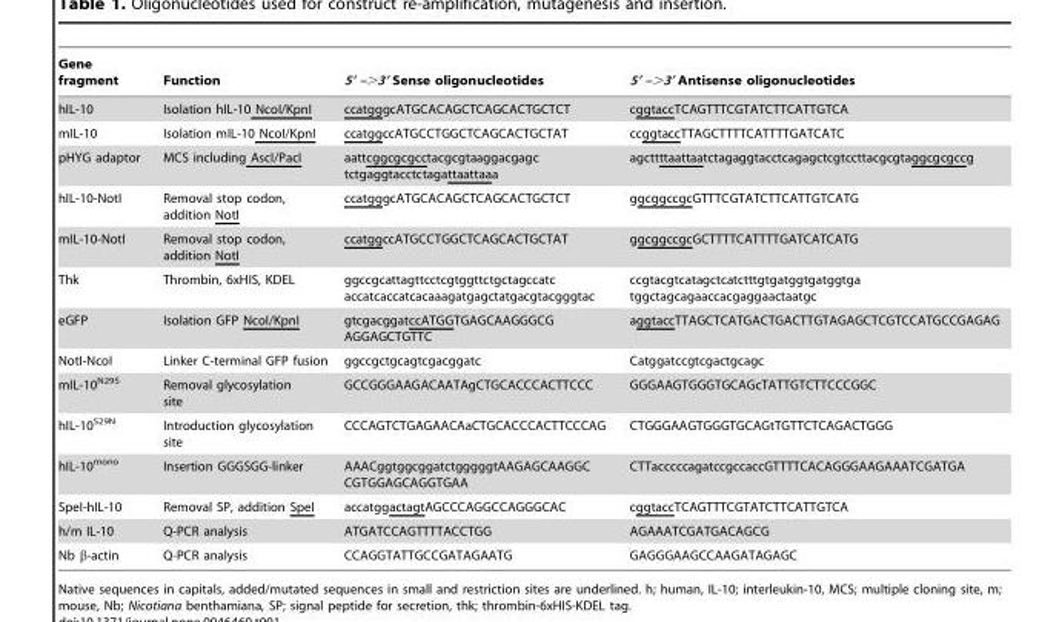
<table><thead><tr><td>Gene fragment</td><td>Function</td><td>5’ –&gt;3’ Sense oligonucleotides</td><td>5’ –&gt;3’ Antisense oligonucleotides</td></tr></thead><tbody><tr><td>hIL-10</td><td>Isolation hIL-10 NcoI/KpnI</td><td>ccatgggcATGCACAGCTCAGCACTGCTCT</td><td>cggtaccTCAGTTTCGTATCTTCATTGTCA</td></tr><tr><td>mIL-10</td><td>Isolation mIL-10 NcoI/KpnI</td><td>ccatggccATGCCTGGCTCAGCACTGCTAT</td><td>ccggtaccTTAGCTTTTCATTTTGATCATC</td></tr><tr><td>pHYG adaptor</td><td>MCS including AscI/PacI</td><td>aattcggcgcgcctacgcgtaaggacgagc tctgaggtacctctagattaattaaa</td><td>agcttttaattaatctagaggtacctcagagctcgtccttacgcgtaggcgcgccg</td></tr><tr><td>hIL-10-NotI</td><td>Removal stop codon, addition NotI</td><td>ccatgggcATGCACAGCTCAGCACTGCTCT</td><td>ggcggccgcGTTTCGTATCTTCATTGTCATG</td></tr><tr><td>mIL-10-NotI</td><td>Removal stop codon, addition NotI</td><td>ccatggccATGCCTGGCTCAGCACTGCTAT</td><td>ggcggccgcGCTTTTCATTTTGATCATCATG</td></tr><tr><td>Thk</td><td>Thrombin, 6xHIS, KDEL</td><td>ggccgcattagttcctcgtggttctgctagccatc accatcaccatcacaaagatgagctatgacgtacgggtac</td><td>ccgtacgtcatagctcatctttgtgatggtgatggtga tggctagcagaaccacgaggaactaatgc</td></tr><tr><td>eGFP</td><td>Isolation GFP NcoI/KpnI</td><td>gtcgacggatccATGGTGAGCAAGGGCG AGGAGCTGTTC</td><td>aggtaccTTAGCTCATGACTGACTTGTAGAGCTCGTCCATGCCGAGAG</td></tr><tr><td>NotI-NcoI</td><td>Linker C-terminal GFP fusion</td><td>ggccgctgcagtcgacggatc</td><td>Catggatccgtcgactgcagc</td></tr><tr><td>mIL-10<sup>N29S</sup></td><td>Removal glycosylation site</td><td>GCCGGGAAGACAATAgCTGCACCCACTTCCC</td><td>GGGAAGTGGGTGCAGcTATTGTCTTCCCGGC</td></tr><tr><td>hIL-10<sup>S29N</sup></td><td>Introduction glycosylation site</td><td>CCCAGTCTGAGAACAaCTGCACCCACTTCCCAG</td><td>CTGGGAAGTGGGTGCAGtTGTTCTCAGACTGGG</td></tr><tr><td>hIL-10<sup>mono</sup></td><td>Insertion GGGSGG-linker</td><td>AAACggtggcggatctgggggtAAGAGCAAGGC CGTGGAGCAGGTGAA</td><td>CTTacccccagatccgccaccGTTTTCACAGGGAAGAAATCGATGA</td></tr><tr><td>SpeI-hIL-10</td><td>Removal SP, addition SpeI</td><td>accatggactagtAGCCCAGGCCAGGGCAC</td><td>cggtaccTCAGTTTCGTATCTTCATTGTCA</td></tr><tr><td>h/m IL-10</td><td>Q-PCR analysis</td><td>ATGATCCAGTTTTACCTGG</td><td>AGAAATCGATGACAGCG</td></tr><tr><td>Nb β-actin</td><td>Q-PCR analysis</td><td>CCAGGTATTGCCGATAGAATG</td><td>GAGGGAAGCCAAGATAGAGC</td></tr></tbody></table>